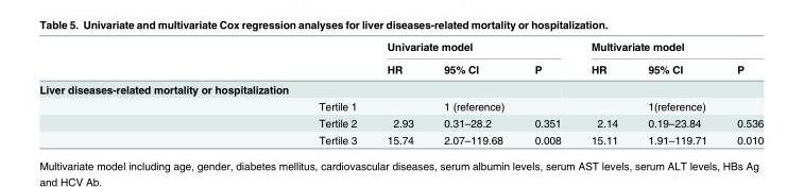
<table><thead><tr><td rowspan="2"></td><td rowspan="2"></td><td colspan="3">Univariate model</td><td colspan="3">Multivariate model</td></tr><tr><td>HR</td><td>95% CI</td><td>P</td><td>HR</td><td>95% CI</td><td>P</td></tr></thead><tbody><tr><td colspan="8">Liver diseases-related mortality or hospitalization</td></tr><tr><td></td><td>Tertile 1</td><td></td><td>1 (reference)</td><td></td><td></td><td>1(reference)</td><td></td></tr><tr><td></td><td>Tertile 2</td><td>2.93</td><td>0.31–28.2</td><td>0.351</td><td>2.14</td><td>0.19–23.84</td><td>0.536</td></tr><tr><td></td><td>Tertile 3</td><td>15.74</td><td>2.07–119.68</td><td>0.008</td><td>15.11</td><td>1.91–119.71</td><td>0.010</td></tr></tbody></table>